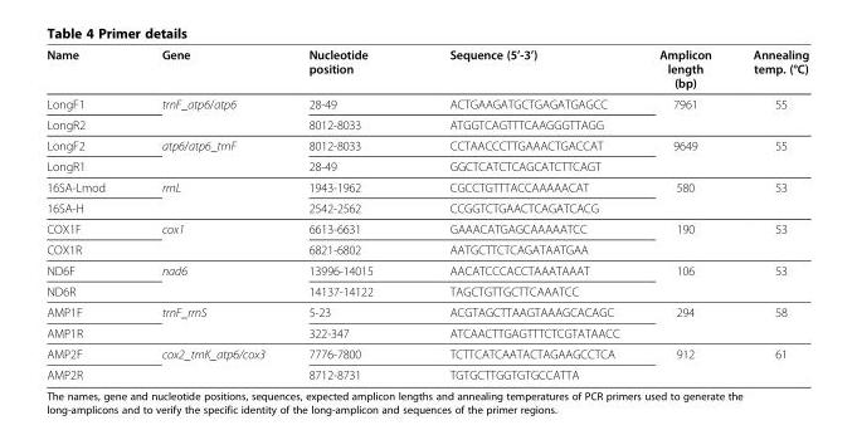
<table><thead><tr><td>Name</td><td>Gene</td><td>Nucleotide position</td><td>Sequence (5’-3’)</td><td>Amplicon length (bp)</td><td>Annealing temp. (°C)</td></tr></thead><tbody><tr><td>LongF1</td><td rowspan="2">trnF_atp6/atp6</td><td>28-49</td><td>ACTGAAGATGCTGAGATGAGCC</td><td rowspan="2">7961</td><td rowspan="2">55</td></tr><tr><td>LongR2</td><td>8012-8033</td><td>ATGGTCAGTTTCAAGGGTTAGG</td></tr><tr><td>LongF2</td><td rowspan="2">atp6/atp6_trnF</td><td>8012-8033</td><td>CCTAACCCTTGAAACTGACCAT</td><td rowspan="2">9649</td><td rowspan="2">55</td></tr><tr><td>LongR1</td><td>28-49</td><td>GGCTCATCTCAGCATCTTCAGT</td></tr><tr><td>16SA-Lmod</td><td>rrnL</td><td>1943-1962</td><td>CGCCTGTTTACCAAAAACAT</td><td>580</td><td rowspan="2">53</td></tr><tr><td>16SA-H</td><td></td><td>2542-2562</td><td>CCGGTCTGAACTCAGATCACG</td><td></td></tr><tr><td>COX1F</td><td>cox1</td><td>6613-6631</td><td>GAAACATGAGCAAAAATCC</td><td>190</td><td rowspan="2">53</td></tr><tr><td>COX1R</td><td></td><td>6821-6802</td><td>AATGCTTCTCAGATAATGAA</td><td></td></tr><tr><td>ND6F</td><td rowspan="2">nad6</td><td>13996-14015</td><td>AACATCCCACCTAAATAAAT</td><td rowspan="2">106</td><td rowspan="2">53</td></tr><tr><td>ND6R</td><td>14137-14122</td><td>TAGCTGTTGCTTCAAATCC</td></tr><tr><td>AMP1F</td><td rowspan="2">trnF_rrnS</td><td>5-23</td><td>ACGTAGCTTAAGTAAAGCACAGC</td><td rowspan="2">294</td><td rowspan="2">58</td></tr><tr><td>AMP1R</td><td>322-347</td><td>ATCAACTTGAGTTTCTCGTATAACC</td></tr><tr><td>AMP2F</td><td rowspan="2">cox2_trnK_atp6/cox3</td><td>7776-7800</td><td>TCTTCATCAATACTAGAAGCCTCA</td><td rowspan="2">912</td><td rowspan="2">61</td></tr><tr><td>AMP2R</td><td>8712-8731</td><td>TGTGCTTGGTGTGCCATTA</td></tr></tbody></table>